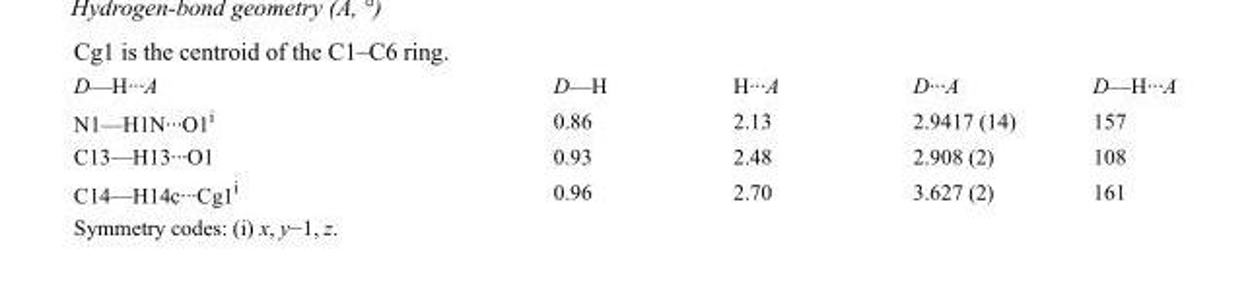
<table><tbody><tr><td>D—H···A</td><td>D—H</td><td>H···A</td><td>D···A</td><td>D—H···A</td></tr><tr><td>N1—H1N···O1<sup>i</sup></td><td>0.86</td><td>2.13</td><td>2.9417 (14)</td><td>157</td></tr><tr><td>C13—H13···O1</td><td>0.93</td><td>2.48</td><td>2.908 (2)</td><td>108</td></tr><tr><td>C14—H14c···Cg1<sup>i</sup></td><td>0.96</td><td>2.70</td><td>3.627 (2)</td><td>161</td></tr></tbody></table>